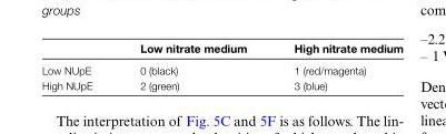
<table><thead><tr><td></td><td>Low nitrate medium</td><td>High nitrate medium</td></tr></thead><tbody><tr><td>Low NUpE</td><td>0 (black)</td><td>1 (red/magenta)</td></tr><tr><td>High NUpE</td><td>2 (green)</td><td>3 (blue)</td></tr></tbody></table>